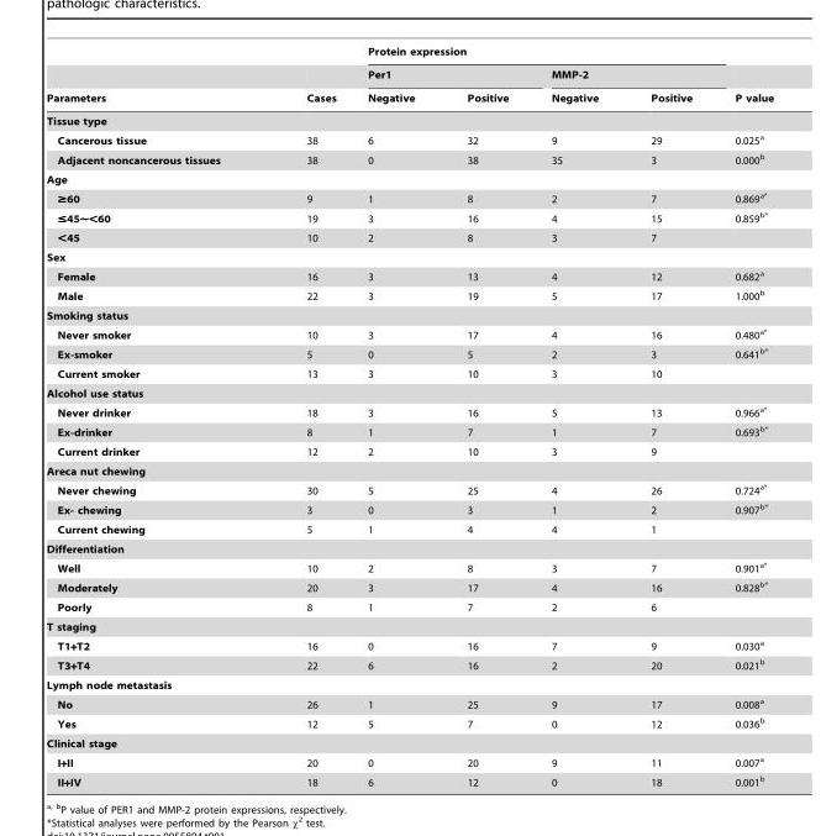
<table><thead><tr><td rowspan="3">Parameters</td><td rowspan="3">Cases</td><td colspan="4">Protein expression</td><td rowspan="3">P value</td></tr><tr><td colspan="2">Per1</td><td colspan="2">MMP-2</td></tr><tr><td>Negative</td><td>Positive</td><td>Negative</td><td>Positive</td></tr></thead><tbody><tr><td colspan="7">Tissue type</td></tr><tr><td>Cancerous tissue</td><td>38</td><td>6</td><td>32</td><td>9</td><td>29</td><td>0.025<sup>a</sup></td></tr><tr><td>Adjacent noncancerous tissues</td><td>38</td><td>0</td><td>38</td><td>35</td><td>3</td><td>0.000<sup>b</sup></td></tr><tr><td colspan="7">Age</td></tr><tr><td>≥60</td><td>9</td><td>1</td><td>8</td><td>2</td><td>7</td><td>0.869<sup>a</sup>*</td></tr><tr><td>≤45∼&lt;60</td><td>19</td><td>3</td><td>16</td><td>4</td><td>15</td><td>0.859<sup>b</sup>*</td></tr><tr><td>&lt;45</td><td>10</td><td>2</td><td>8</td><td>3</td><td>7</td><td></td></tr><tr><td colspan="7">Sex</td></tr><tr><td>Female</td><td>16</td><td>3</td><td>13</td><td>4</td><td>12</td><td>0.682<sup>a</sup></td></tr><tr><td>Male</td><td>22</td><td>3</td><td>19</td><td>5</td><td>17</td><td>1.000<sup>b</sup></td></tr><tr><td colspan="7">Smoking status</td></tr><tr><td>Never smoker</td><td>10</td><td>3</td><td>17</td><td>4</td><td>16</td><td>0.480<sup>a</sup>*</td></tr><tr><td>Ex-smoker</td><td>5</td><td>0</td><td>5</td><td>2</td><td>3</td><td>0.641<sup>b</sup>*</td></tr><tr><td>Current smoker</td><td>13</td><td>3</td><td>10</td><td>3</td><td>10</td><td></td></tr><tr><td colspan="7">Alcohol use status</td></tr><tr><td>Never drinker</td><td>18</td><td>3</td><td>16</td><td>5</td><td>13</td><td>0.966<sup>a</sup>*</td></tr><tr><td>Ex-drinker</td><td>8</td><td>1</td><td>7</td><td>1</td><td>7</td><td>0.693<sup>b</sup>*</td></tr><tr><td>Current drinker</td><td>12</td><td>2</td><td>10</td><td>3</td><td>9</td><td></td></tr><tr><td colspan="7">Areca nut chewing</td></tr><tr><td>Never chewing</td><td>30</td><td>5</td><td>25</td><td>4</td><td>26</td><td>0.724<sup>a</sup>*</td></tr><tr><td>Ex- chewing</td><td>3</td><td>0</td><td>3</td><td>1</td><td>2</td><td>0.907<sup>b</sup>*</td></tr><tr><td>Current chewing</td><td>5</td><td>1</td><td>4</td><td>4</td><td>1</td><td></td></tr><tr><td colspan="7">Differentiation</td></tr><tr><td>Well</td><td>10</td><td>2</td><td>8</td><td>3</td><td>7</td><td>0.901<sup>a</sup>*</td></tr><tr><td>Moderately</td><td>20</td><td>3</td><td>17</td><td>4</td><td>16</td><td>0.828<sup>b</sup>*</td></tr><tr><td>Poorly</td><td>8</td><td>1</td><td>7</td><td>2</td><td>6</td><td></td></tr><tr><td colspan="7">T staging</td></tr><tr><td>T1+T2</td><td>16</td><td>0</td><td>16</td><td>7</td><td>9</td><td>0.030<sup>a</sup></td></tr><tr><td>T3+T4</td><td>22</td><td>6</td><td>16</td><td>2</td><td>20</td><td>0.021<sup>b</sup></td></tr><tr><td colspan="7">Lymph node metastasis</td></tr><tr><td>No</td><td>26</td><td>1</td><td>25</td><td>9</td><td>17</td><td>0.008<sup>a</sup></td></tr><tr><td>Yes</td><td>12</td><td>5</td><td>7</td><td>0</td><td>12</td><td>0.036<sup>b</sup></td></tr><tr><td colspan="7">Clinical stage</td></tr><tr><td>I+II</td><td>20</td><td>0</td><td>20</td><td>9</td><td>11</td><td>0.007<sup>a</sup></td></tr><tr><td>II+IV</td><td>18</td><td>6</td><td>12</td><td>0</td><td>18</td><td>0.001<sup>b</sup></td></tr></tbody></table>